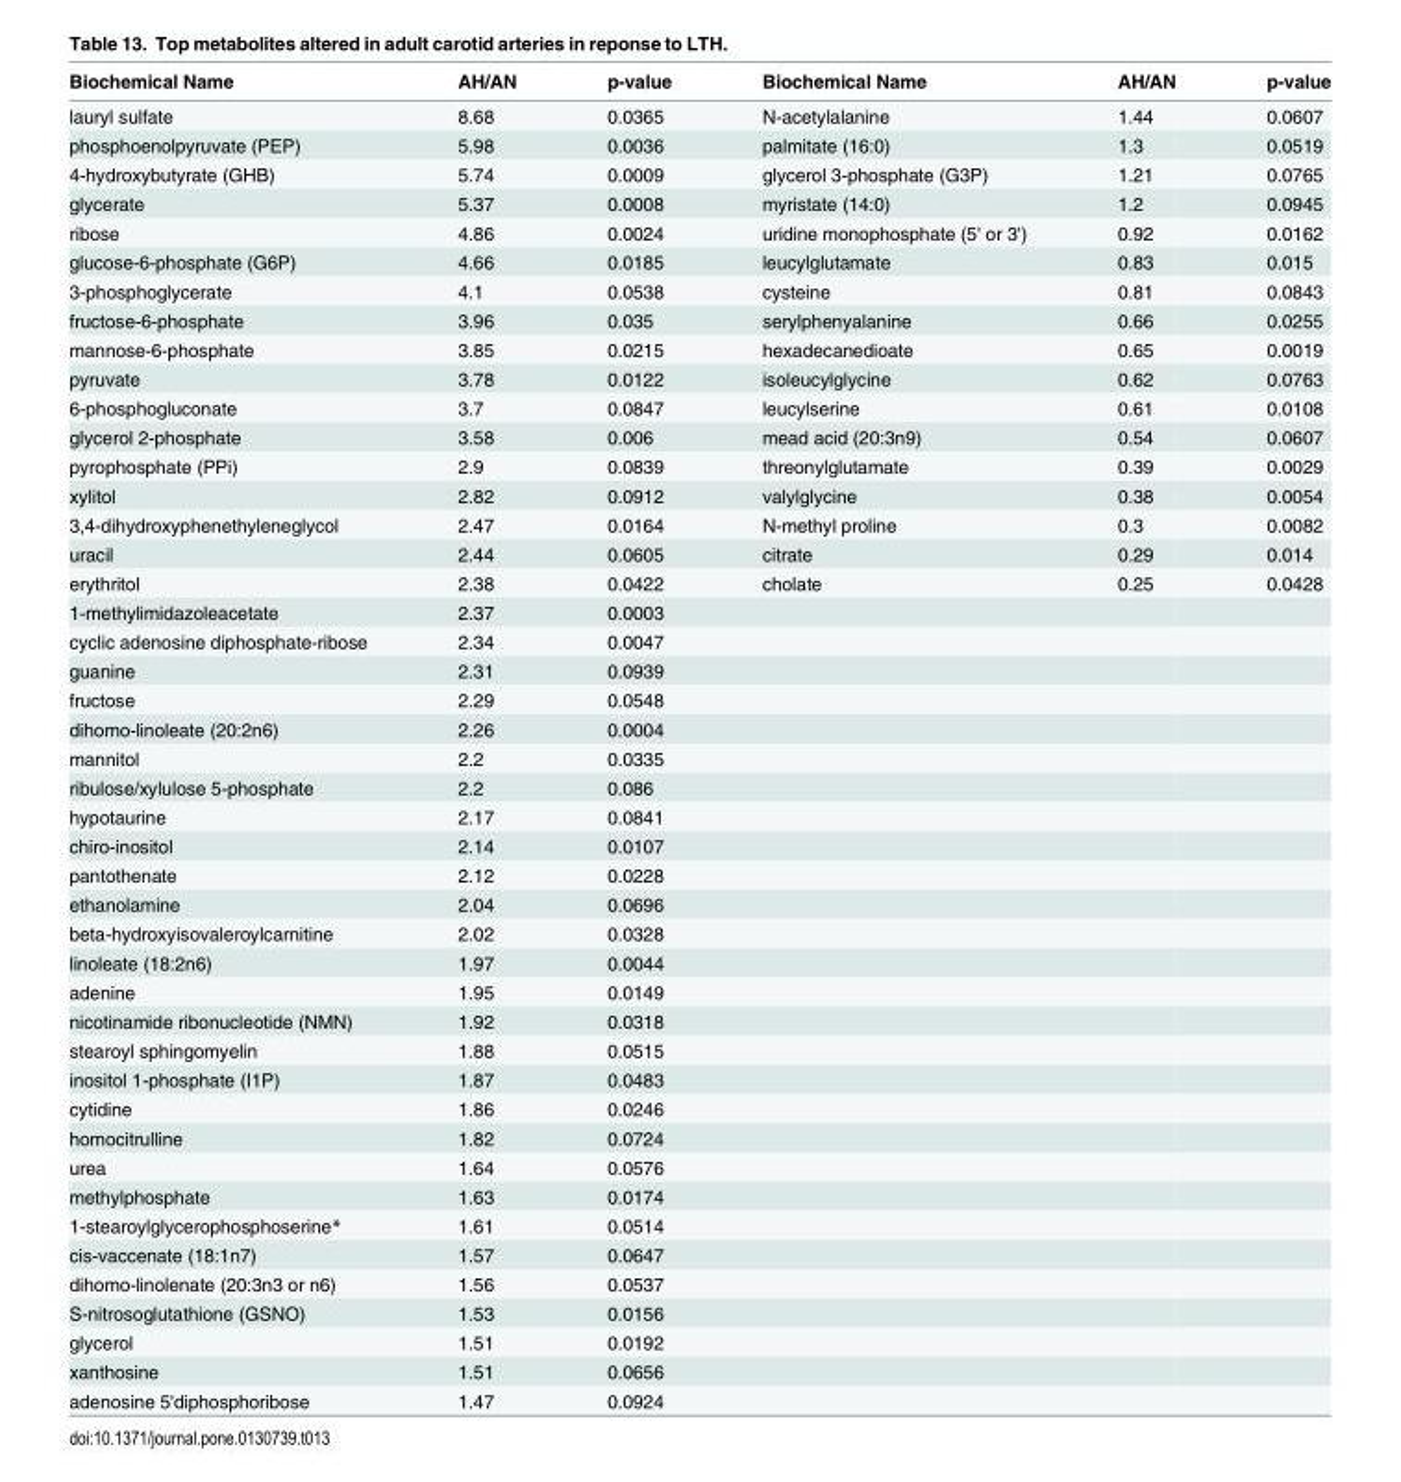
<table><thead><tr><td>Biochemical Name</td><td>AH/AN</td><td>p-value</td><td>Biochemical Name</td><td>AH/AN</td><td>p-value</td></tr></thead><tbody><tr><td>lauryl sulfate</td><td>8.68</td><td>0.0365</td><td>N-acetylalanine</td><td>1.44</td><td>0.0607</td></tr><tr><td>phosphoenolpyruvate (PEP)</td><td>5.98</td><td>0.0036</td><td>palmitate (16:0)</td><td>1.3</td><td>0.0519</td></tr><tr><td>4-hydroxybutyrate (GHB)</td><td>5.74</td><td>0.0009</td><td>glycerol 3-phosphate (G3P)</td><td>1.21</td><td>0.0765</td></tr><tr><td>glycerate</td><td>5.37</td><td>0.0008</td><td>myristate (14:0)</td><td>1.2</td><td>0.0945</td></tr><tr><td>ribose</td><td>4.86</td><td>0.0024</td><td>uridine monophosphate (5&#x27; or 3&#x27;)</td><td>0.92</td><td>0.0162</td></tr><tr><td>glucose-6-phosphate (G6P)</td><td>4.66</td><td>0.0185</td><td>leucylglutamate</td><td>0.83</td><td>0.015</td></tr><tr><td>3-phosphoglycerate</td><td>4.1</td><td>0.0538</td><td>cysteine</td><td>0.81</td><td>0.0843</td></tr><tr><td>fructose-6-phosphate</td><td>3.96</td><td>0.035</td><td>serylphenyalanine</td><td>0.66</td><td>0.0255</td></tr><tr><td>mannose-6-phosphate</td><td>3.85</td><td>0.0215</td><td>hexadecanedioate</td><td>0.65</td><td>0.0019</td></tr><tr><td>pyruvate</td><td>3.78</td><td>0.0122</td><td>isoleucylglycine</td><td>0.62</td><td>0.0763</td></tr><tr><td>6-phosphogluconate</td><td>3.7</td><td>0.0847</td><td>leucylserine</td><td>0.61</td><td>0.0108</td></tr><tr><td>glycerol 2-phosphate</td><td>3.58</td><td>0.006</td><td>mead acid (20:3n9)</td><td>0.54</td><td>0.0607</td></tr><tr><td>pyrophosphate (PPi)</td><td>2.9</td><td>0.0839</td><td>threonylglutamate</td><td>0.39</td><td>0.0029</td></tr><tr><td>xylitol</td><td>2.82</td><td>0.0912</td><td>valylglycine</td><td>0.38</td><td>0.0054</td></tr><tr><td>3,4-dihydroxyphenethyleneglycol</td><td>2.47</td><td>0.0164</td><td>N-methyl proline</td><td>0.3</td><td>0.0082</td></tr><tr><td>uracil</td><td>2.44</td><td>0.0605</td><td>citrate</td><td>0.29</td><td>0.014</td></tr><tr><td>erythritol</td><td>2.38</td><td>0.0422</td><td>cholate</td><td>0.25</td><td>0.0428</td></tr><tr><td>1-methylimidazoleacetate</td><td>2.37</td><td>0.0003</td><td></td><td></td><td></td></tr><tr><td>cyclic adenosine diphosphate-ribose</td><td>2.34</td><td>0.0047</td><td></td><td></td><td></td></tr><tr><td>guanine</td><td>2.31</td><td>0.0939</td><td></td><td></td><td></td></tr><tr><td>fructose</td><td>2.29</td><td>0.0548</td><td></td><td></td><td></td></tr><tr><td>dihomo-linoleate (20:2n6)</td><td>2.26</td><td>0.0004</td><td></td><td></td><td></td></tr><tr><td>mannitol</td><td>2.2</td><td>0.0335</td><td></td><td></td><td></td></tr><tr><td>ribulose/xylulose 5-phosphate</td><td>2.2</td><td>0.086</td><td></td><td></td><td></td></tr><tr><td>hypotaurine</td><td>2.17</td><td>0.0841</td><td></td><td></td><td></td></tr><tr><td>chiro-inositol</td><td>2.14</td><td>0.0107</td><td></td><td></td><td></td></tr><tr><td>pantothenate</td><td>2.12</td><td>0.0228</td><td></td><td></td><td></td></tr><tr><td>ethanolamine</td><td>2.04</td><td>0.0696</td><td></td><td></td><td></td></tr><tr><td>beta-hydroxyisovaleroylcarnitine</td><td>2.02</td><td>0.0328</td><td></td><td></td><td></td></tr><tr><td>linoleate (18:2n6)</td><td>1.97</td><td>0.0044</td><td></td><td></td><td></td></tr><tr><td>adenine</td><td>1.95</td><td>0.0149</td><td></td><td></td><td></td></tr><tr><td>nicotinamide ribonucleotide (NMN)</td><td>1.92</td><td>0.0318</td><td></td><td></td><td></td></tr><tr><td>stearoyl sphingomyelin</td><td>1.88</td><td>0.0515</td><td></td><td></td><td></td></tr><tr><td>inositol 1-phosphate (I1P)</td><td>1.87</td><td>0.0483</td><td></td><td></td><td></td></tr><tr><td>cytidine</td><td>1.86</td><td>0.0246</td><td></td><td></td><td></td></tr><tr><td>homocitrulline</td><td>1.82</td><td>0.0724</td><td></td><td></td><td></td></tr><tr><td>urea</td><td>1.64</td><td>0.0576</td><td></td><td></td><td></td></tr><tr><td>methylphosphate</td><td>1.63</td><td>0.0174</td><td></td><td></td><td></td></tr><tr><td>1-stearoylglycerophosphoserine*</td><td>1.61</td><td>0.0514</td><td></td><td></td><td></td></tr><tr><td>cis-vaccenate (18:1n7)</td><td>1.57</td><td>0.0647</td><td></td><td></td><td></td></tr><tr><td>dihomo-linolenate (20:3n3 or n6)</td><td>1.56</td><td>0.0537</td><td></td><td></td><td></td></tr><tr><td>S-nitrosoglutathione (GSNO)</td><td>1.53</td><td>0.0156</td><td></td><td></td><td></td></tr><tr><td>glycerol</td><td>1.51</td><td>0.0192</td><td></td><td></td><td></td></tr><tr><td>xanthosine</td><td>1.51</td><td>0.0656</td><td></td><td></td><td></td></tr><tr><td>adenosine 5&#x27;diphosphoribose</td><td>1.47</td><td>0.0924</td><td></td><td></td><td></td></tr></tbody></table>